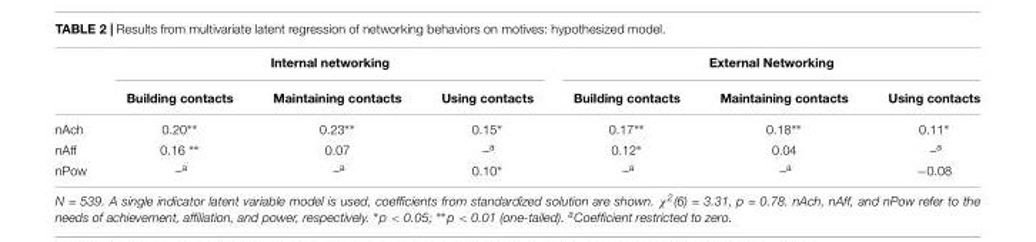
<table><thead><tr><td rowspan="2"></td><td colspan="3">Internal networking</td><td colspan="3">External Networking</td></tr><tr><td>Building contacts</td><td>Maintaining contacts</td><td>Using contacts</td><td>Building contacts</td><td>Maintaining contacts</td><td>Using contacts</td></tr></thead><tbody><tr><td>nAch</td><td>0.20∗∗</td><td>0.23∗∗</td><td>0.15∗</td><td>0.17∗∗</td><td>0.18∗∗</td><td>0.11∗</td></tr><tr><td>nAff</td><td>0.16 ∗∗</td><td>0.07</td><td>–<sup>a</sup></td><td>0.12∗</td><td>0.04</td><td>–<sup>a</sup></td></tr><tr><td>nPow</td><td>–<sup>a</sup></td><td>–<sup>a</sup></td><td>0.10∗</td><td>–<sup>a</sup></td><td>–<sup>a</sup></td><td>−0.08</td></tr></tbody></table>